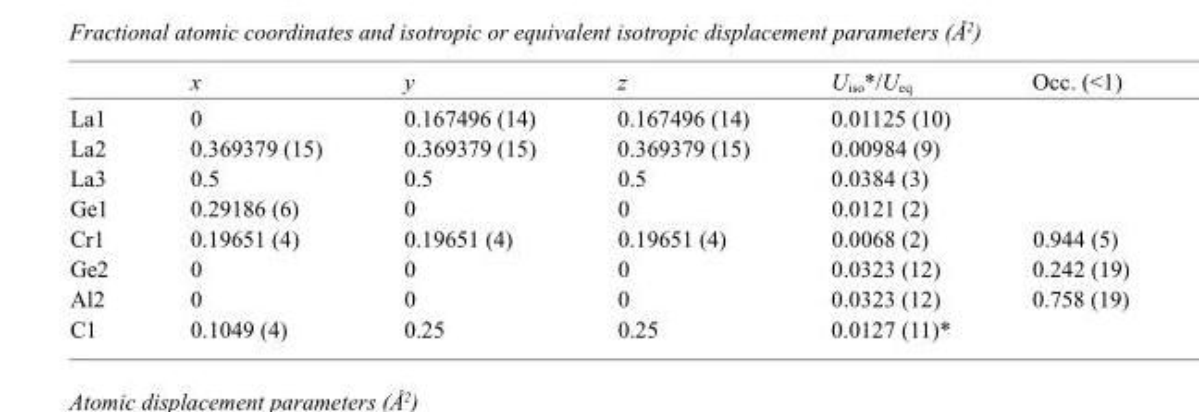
<table><thead><tr><td></td><td>x</td><td>y</td><td>z</td><td>U<sub>iso</sub>*/U<sub>eq</sub></td><td>Occ. (&lt;1)</td></tr></thead><tbody><tr><td>La1</td><td>0</td><td>0.167496 (14)</td><td>0.167496 (14)</td><td>0.01125 (10)</td><td></td></tr><tr><td>La2</td><td>0.369379 (15)</td><td>0.369379 (15)</td><td>0.369379 (15)</td><td>0.00984 (9)</td><td></td></tr><tr><td>La3</td><td>0.5</td><td>0.5</td><td>0.5</td><td>0.0384 (3)</td><td></td></tr><tr><td>Ge1</td><td>0.29186 (6)</td><td>0</td><td>0</td><td>0.0121 (2)</td><td></td></tr><tr><td>Cr1</td><td>0.19651 (4)</td><td>0.19651 (4)</td><td>0.19651 (4)</td><td>0.0068 (2)</td><td>0.944 (5)</td></tr><tr><td>Ge2</td><td>0</td><td>0</td><td>0</td><td>0.0323 (12)</td><td>0.242 (19)</td></tr><tr><td>Al2</td><td>0</td><td>0</td><td>0</td><td>0.0323 (12)</td><td>0.758 (19)</td></tr><tr><td>C1</td><td>0.1049 (4)</td><td>0.25</td><td>0.25</td><td>0.0127 (11)*</td><td></td></tr></tbody></table>